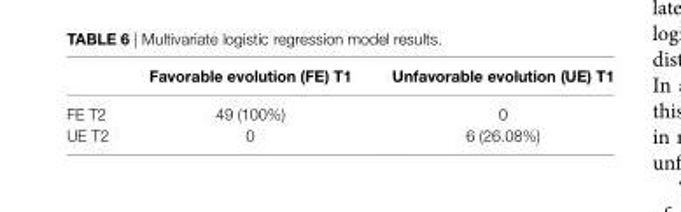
<table><thead><tr><td></td><td>Favorable evolution (Fe) T1</td><td>Unfavorable evolution (Ue) T1</td></tr></thead><tbody><tr><td>FE T2</td><td>49 (100%)</td><td>0</td></tr><tr><td>UE T2</td><td>0</td><td>6 (26.08%)</td></tr></tbody></table>